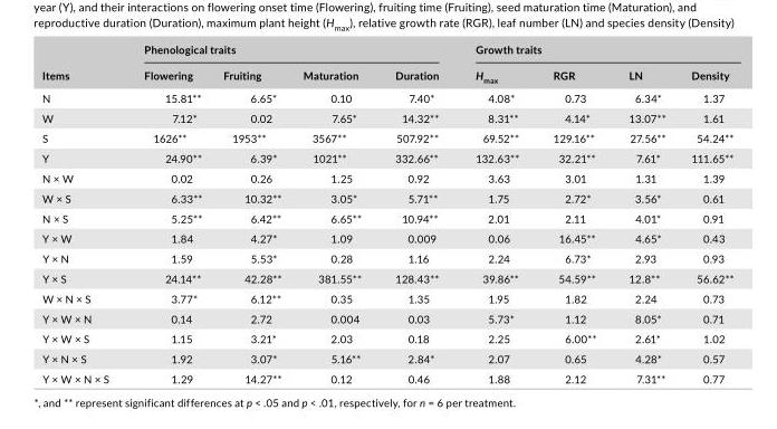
<table><thead><tr><td rowspan="2">Items</td><td colspan="4">Phenological traits</td><td colspan="4">Growth traits</td></tr><tr><td>Flowering</td><td>Fruiting</td><td>Maturation</td><td>Duration</td><td>H<sub>max</sub></td><td>RGR</td><td>LN</td><td>Density</td></tr></thead><tbody><tr><td>N</td><td>15.81**</td><td>6.65*</td><td>0.10</td><td>7.40*</td><td>4.08*</td><td>0.73</td><td>6.34*</td><td>1.37</td></tr><tr><td>W</td><td>7.12*</td><td>0.02</td><td>7.65*</td><td>14.32**</td><td>8.31**</td><td>4.14*</td><td>13.07**</td><td>1.61</td></tr><tr><td>S</td><td>1626**</td><td>1953**</td><td>3567**</td><td>507.92**</td><td>69.52**</td><td>129.16**</td><td>27.56**</td><td>54.24**</td></tr><tr><td>Y</td><td>24.90**</td><td>6.39*</td><td>1021**</td><td>332.66**</td><td>132.63**</td><td>32.21**</td><td>7.61*</td><td>111.65**</td></tr><tr><td>N × W</td><td>0.02</td><td>0.26</td><td>1.25</td><td>0.92</td><td>3.63</td><td>3.01</td><td>1.31</td><td>1.39</td></tr><tr><td>W × S</td><td>6.33**</td><td>10.32**</td><td>3.05*</td><td>5.71**</td><td>1.75</td><td>2.72*</td><td>3.56*</td><td>0.61</td></tr><tr><td>N × S</td><td>5.25**</td><td>6.42**</td><td>6.65**</td><td>10.94**</td><td>2.01</td><td>2.11</td><td>4.01*</td><td>0.91</td></tr><tr><td>Y × W</td><td>1.84</td><td>4.27*</td><td>1.09</td><td>0.009</td><td>0.06</td><td>16.45**</td><td>4.65*</td><td>0.43</td></tr><tr><td>Y × N</td><td>1.59</td><td>5.53*</td><td>0.28</td><td>1.16</td><td>2.24</td><td>6.73*</td><td>2.93</td><td>0.93</td></tr><tr><td>Y × S</td><td>24.14**</td><td>42.28**</td><td>381.55**</td><td>128.43**</td><td>39.86**</td><td>54.59**</td><td>12.8**</td><td>56.62**</td></tr><tr><td>W × N × S</td><td>3.77*</td><td>6.12**</td><td>0.35</td><td>1.35</td><td>1.95</td><td>1.82</td><td>2.24</td><td>0.73</td></tr><tr><td>Y × W × N</td><td>0.14</td><td>2.72</td><td>0.004</td><td>0.03</td><td>5.73*</td><td>1.12</td><td>8.05*</td><td>0.71</td></tr><tr><td>Y × W × S</td><td>1.15</td><td>3.21*</td><td>2.03</td><td>0.18</td><td>2.25</td><td>6.00**</td><td>2.61*</td><td>1.02</td></tr><tr><td>Y × N × S</td><td>1.92</td><td>3.07*</td><td>5.16**</td><td>2.84*</td><td>2.07</td><td>0.65</td><td>4.28*</td><td>0.57</td></tr><tr><td>Y × W × N × S</td><td>1.29</td><td>14.27**</td><td>0.12</td><td>0.46</td><td>1.88</td><td>2.12</td><td>7.31**</td><td>0.77</td></tr></tbody></table>